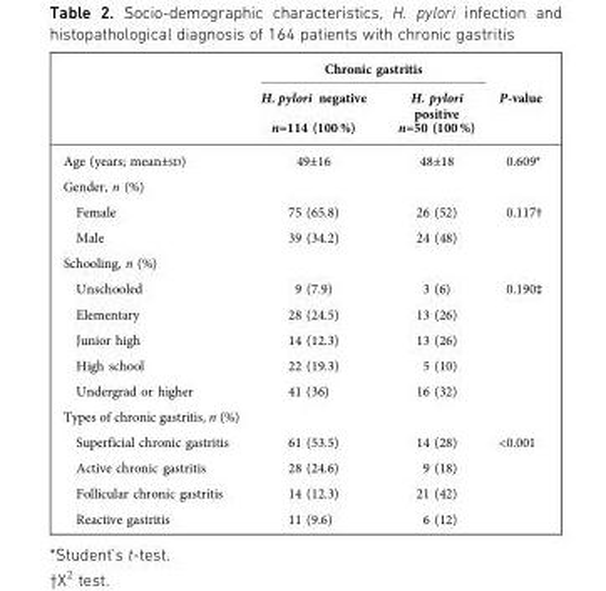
<table><thead><tr><td rowspan="3"></td><td colspan="2">Chronic gastritis</td><td rowspan="3">P-value</td></tr><tr><td rowspan="2">H. pylori negative n=114 (100 %)</td><td rowspan="2">H. pylori positive n=50 (100 %)</td></tr><tr></tr></thead><tbody><tr><td>Age (years; mean±SD)</td><td>49±16</td><td>48±18</td><td>0.609*</td></tr><tr><td colspan="4">Gender, n (%)</td></tr><tr><td>Female</td><td>75 (65.8)</td><td>26 (52)</td><td rowspan="2">0.117†</td></tr><tr><td>Male</td><td>39 (34.2)</td><td>24 (48)</td></tr><tr><td colspan="4">Schooling, n (%)</td></tr><tr><td>Unschooled</td><td>9 (7.9)</td><td>3 (6)</td><td rowspan="5">0.190‡</td></tr><tr><td>Elementary</td><td>28 (24.5)</td><td>13 (26)</td></tr><tr><td>Junior high</td><td>14 (12.3)</td><td>13 (26)</td></tr><tr><td>High school</td><td>22 (19.3)</td><td>5 (10)</td></tr><tr><td>Undergrad or higher</td><td>41 (36)</td><td>16 (32)</td></tr><tr><td colspan="4">Types of chronic gastritis, n (%)</td></tr><tr><td>Superficial chronic gastritis</td><td>61 (53.5)</td><td>14 (28)</td><td rowspan="4">&lt;0.001</td></tr><tr><td>Active chronic gastritis</td><td>28 (24.6)</td><td>9 (18)</td></tr><tr><td>Follicular chronic gastritis</td><td>14 (12.3)</td><td>21 (42)</td></tr><tr><td>Reactive gastritis</td><td>11 (9.6)</td><td>6 (12)</td></tr></tbody></table>